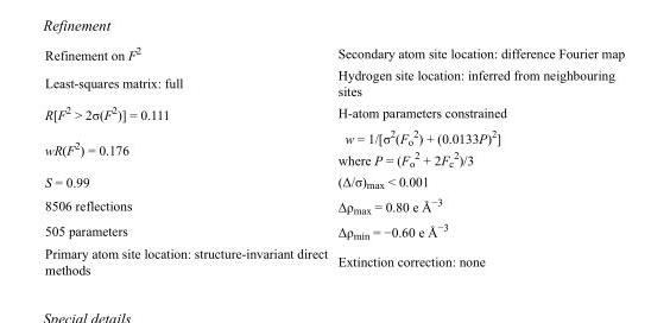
<table><tbody><tr><td>Refinement on F<sup>2</sup></td><td>Secondary atom site location: difference Fourier map</td></tr><tr><td>Least-squares matrix: full</td><td>Hydrogen site location: inferred from neighbouring sites</td></tr><tr><td>R[F<sup>2</sup> &gt; 2σ(F<sup>2</sup>)] = 0.111</td><td>H-atom parameters constrained</td></tr><tr><td>wR(F<sup>2</sup>) = 0.176</td><td>w = 1/[σ<sup>2</sup>(F<sub>o</sub> <sup>2</sup>) + (0.0133P)<sup>2</sup>] where P = (F<sub>o</sub> <sup>2</sup> + 2F<sub>c</sub> <sup>2</sup>)/3</td></tr><tr><td>S = 0.99</td><td>(Δ/σ)<sub>max</sub> &lt; 0.001</td></tr><tr><td>8506 reflections</td><td>Δρ<sub>max</sub> = 0.80 e Å<sup>−3</sup></td></tr><tr><td>505 parameters</td><td>Δρ<sub>min</sub> = −0.60 e Å<sup>−3</sup></td></tr><tr><td>Primary atom site location: structure-invariant direct methods</td><td>Extinction correction: none</td></tr></tbody></table>